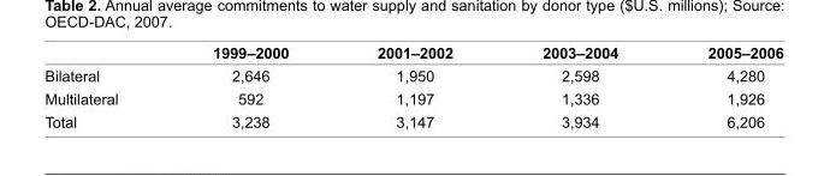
<table><thead><tr><td></td><td>1999–2000</td><td>2001–2002</td><td>2003–2004</td><td>2005–2006</td></tr></thead><tbody><tr><td>Bilateral</td><td>2,646</td><td>1,950</td><td>2,598</td><td>4,280</td></tr><tr><td>Multilateral</td><td>592</td><td>1,197</td><td>1,336</td><td>1,926</td></tr><tr><td>Total</td><td>3,238</td><td>3,147</td><td>3,934</td><td>6,206</td></tr></tbody></table>